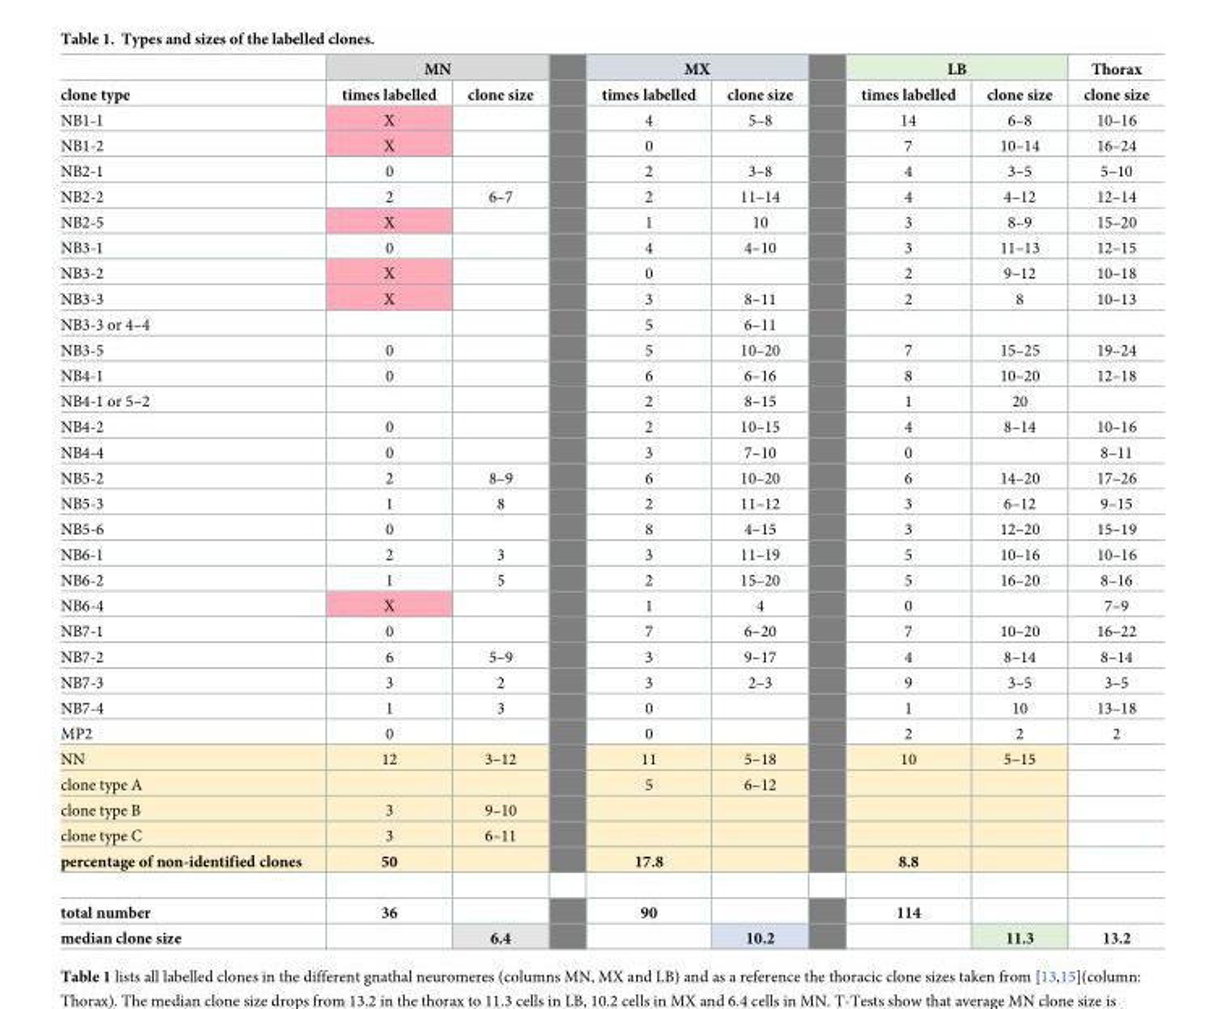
<table><thead><tr><td rowspan="2">clone type</td><td colspan="2">MN</td><td colspan="2">MX</td><td colspan="2">LB</td><td rowspan="2">Thorax clone size</td></tr><tr><td>times labelled</td><td>clone size</td><td>times labelled</td><td>clone size</td><td>times labelled</td><td>clone size</td></tr></thead><tbody><tr><td>NB1-1</td><td>X</td><td></td><td>4</td><td>5–8</td><td>14</td><td>6–8</td><td>10–16</td></tr><tr><td>NB1-2</td><td>X</td><td></td><td>0</td><td></td><td>7</td><td>10–14</td><td>16–24</td></tr><tr><td>NB2-1</td><td>0</td><td></td><td>2</td><td>3–8</td><td>4</td><td>3–5</td><td>5–10</td></tr><tr><td>NB2-2</td><td>2</td><td>6–7</td><td>2</td><td>11–14</td><td>4</td><td>4–12</td><td>12–14</td></tr><tr><td>NB2-5</td><td>X</td><td></td><td>1</td><td>10</td><td>3</td><td>8–9</td><td>15–20</td></tr><tr><td>NB3-1</td><td>0</td><td></td><td>4</td><td>4–10</td><td>3</td><td>11–13</td><td>12–15</td></tr><tr><td>NB3-2</td><td>X</td><td></td><td>0</td><td></td><td>2</td><td>9–12</td><td>10–18</td></tr><tr><td>NB3-3</td><td>X</td><td></td><td>3</td><td>8–11</td><td>2</td><td>8</td><td>10–13</td></tr><tr><td>NB3-3 or 4–4</td><td></td><td></td><td>5</td><td>6–11</td><td></td><td></td><td></td></tr><tr><td>NB3-5</td><td>0</td><td></td><td>5</td><td>10–20</td><td>7</td><td>15–25</td><td>19–24</td></tr><tr><td>NB4-1</td><td>0</td><td></td><td>6</td><td>6–16</td><td>8</td><td>10–20</td><td>12–18</td></tr><tr><td>NB4-1 or 5–2</td><td></td><td></td><td>2</td><td>8–15</td><td>1</td><td>20</td><td></td></tr><tr><td>NB4-2</td><td>0</td><td></td><td>2</td><td>10–15</td><td>4</td><td>8–14</td><td>10–16</td></tr><tr><td>NB4-4</td><td>0</td><td></td><td>3</td><td>7–10</td><td>0</td><td></td><td>8–11</td></tr><tr><td>NB5-2</td><td>2</td><td>8–9</td><td>6</td><td>10–20</td><td>6</td><td>14–20</td><td>17–26</td></tr><tr><td>NB5-3</td><td>1</td><td>8</td><td>2</td><td>11–12</td><td>3</td><td>6–12</td><td>9–15</td></tr><tr><td>NB5-6</td><td>0</td><td></td><td>8</td><td>4–15</td><td>3</td><td>12–20</td><td>15–19</td></tr><tr><td>NB6-1</td><td>2</td><td>3</td><td>3</td><td>11–19</td><td>5</td><td>10–16</td><td>10–16</td></tr><tr><td>NB6-2</td><td>1</td><td>5</td><td>2</td><td>15–20</td><td>5</td><td>16–20</td><td>8–16</td></tr><tr><td>NB6-4</td><td>X</td><td></td><td>1</td><td>4</td><td>0</td><td></td><td>7–9</td></tr><tr><td>NB7-1</td><td>0</td><td></td><td>7</td><td>6–20</td><td>7</td><td>10–20</td><td>16–22</td></tr><tr><td>NB7-2</td><td>6</td><td>5–9</td><td>3</td><td>9–17</td><td>4</td><td>8–14</td><td>8–14</td></tr><tr><td>NB7-3</td><td>3</td><td>2</td><td>3</td><td>2–3</td><td>9</td><td>3–5</td><td>3–5</td></tr><tr><td>NB7-4</td><td>1</td><td>3</td><td>0</td><td></td><td>1</td><td>10</td><td>13–18</td></tr><tr><td>MP2</td><td>0</td><td></td><td>0</td><td></td><td>2</td><td>2</td><td>2</td></tr><tr><td>NN</td><td>12</td><td>3–12</td><td>11</td><td>5–18</td><td>10</td><td>5–15</td><td></td></tr><tr><td>clone type A</td><td></td><td></td><td>5</td><td>6–12</td><td></td><td></td><td></td></tr><tr><td>clone type B</td><td>3</td><td>9–10</td><td></td><td></td><td></td><td></td><td></td></tr><tr><td>clone type C</td><td>3</td><td>6–11</td><td></td><td></td><td></td><td></td><td></td></tr><tr><td>percentage of non-identified clones</td><td>50</td><td></td><td>17.8</td><td></td><td>8.8</td><td></td><td></td></tr><tr><td>total number</td><td>36</td><td></td><td>90</td><td></td><td>114</td><td></td><td></td></tr><tr><td>median clone size</td><td></td><td>6.4</td><td></td><td>10.2</td><td></td><td>11.3</td><td>13.2</td></tr></tbody></table>